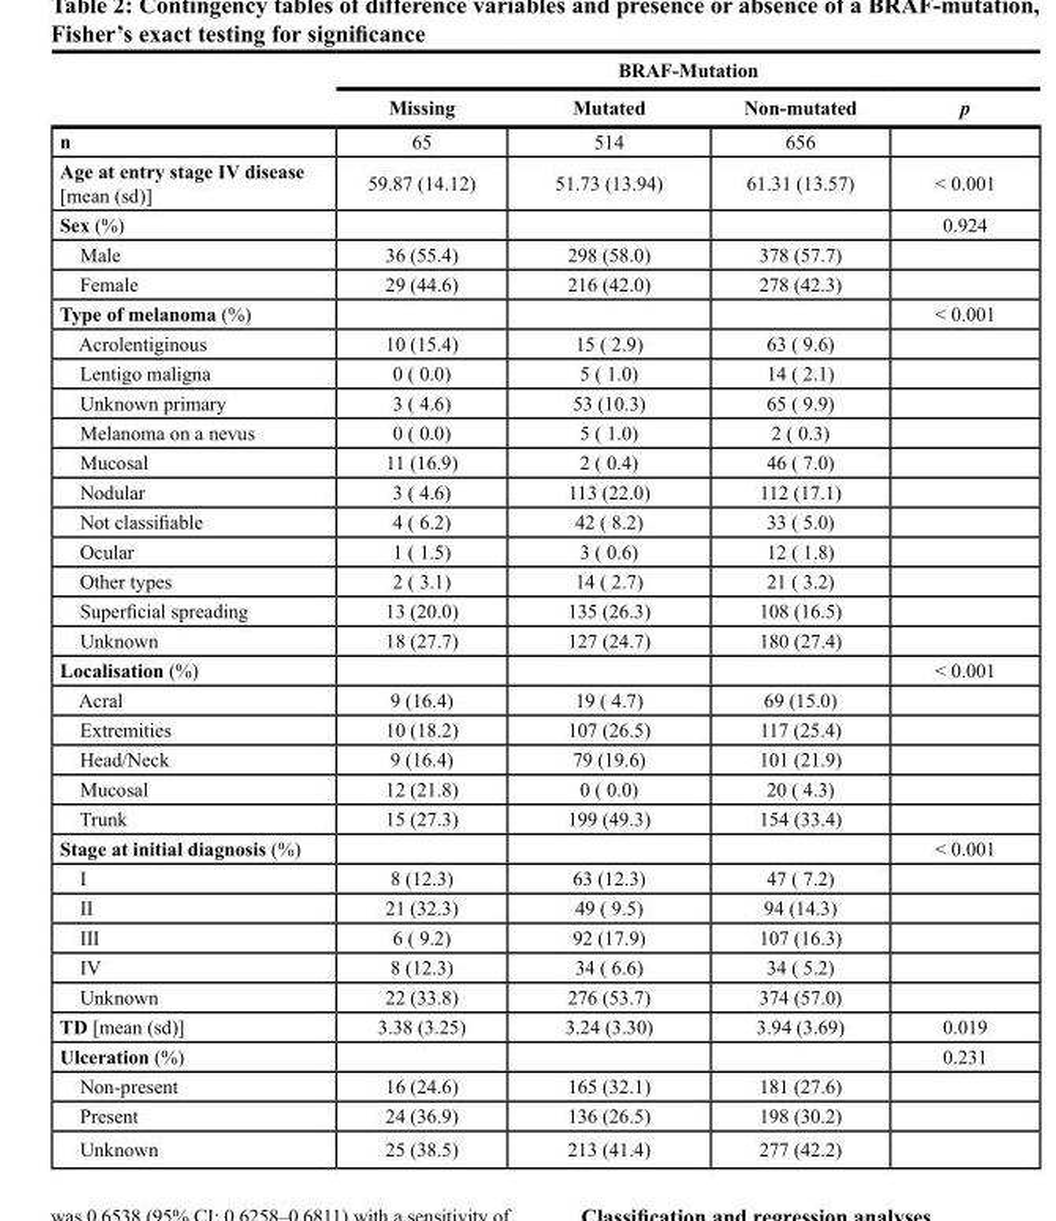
<table><thead><tr><td rowspan="2"></td><td colspan="4">brAF-Mutation</td></tr><tr><td>Missing</td><td>Mutated</td><td>non-mutated</td><td>p</td></tr></thead><tbody><tr><td>n</td><td>65</td><td>514</td><td>656</td><td></td></tr><tr><td>Age at entry stage IV disease [mean (sd)]</td><td>59.87 (14.12)</td><td>51.73 (13.94)</td><td>61.31 (13.57)</td><td>&lt; 0.001</td></tr><tr><td>sex (%)</td><td></td><td></td><td></td><td>0.924</td></tr><tr><td>Male</td><td>36 (55.4)</td><td>298 (58.0)</td><td>378 (57.7)</td><td></td></tr><tr><td>Female</td><td>29 (44.6)</td><td>216 (42.0)</td><td>278 (42.3)</td><td></td></tr><tr><td>type of melanoma (%)</td><td></td><td></td><td></td><td>&lt; 0.001</td></tr><tr><td>Acrolentiginous</td><td>10 (15.4)</td><td>15 ( 2.9)</td><td>63 ( 9.6)</td><td></td></tr><tr><td>Lentigo maligna</td><td>0 ( 0.0)</td><td>5 ( 1.0)</td><td>14 ( 2.1)</td><td></td></tr><tr><td>Unknown primary</td><td>3 ( 4.6)</td><td>53 (10.3)</td><td>65 ( 9.9)</td><td></td></tr><tr><td>Melanoma on a nevus</td><td>0 ( 0.0)</td><td>5 ( 1.0)</td><td>2 ( 0.3)</td><td></td></tr><tr><td>Mucosal</td><td>11 (16.9)</td><td>2 ( 0.4)</td><td>46 ( 7.0)</td><td></td></tr><tr><td>Nodular</td><td>3 ( 4.6)</td><td>113 (22.0)</td><td>112 (17.1)</td><td></td></tr><tr><td>Not classifiable</td><td>4 ( 6.2)</td><td>42 ( 8.2)</td><td>33 ( 5.0)</td><td></td></tr><tr><td>Ocular</td><td>1 ( 1.5)</td><td>3 ( 0.6)</td><td>12 ( 1.8)</td><td></td></tr><tr><td>Other types</td><td>2 ( 3.1)</td><td>14 ( 2.7)</td><td>21 ( 3.2)</td><td></td></tr><tr><td>Superficial spreading</td><td>13 (20.0)</td><td>135 (26.3)</td><td>108 (16.5)</td><td></td></tr><tr><td>Unknown</td><td>18 (27.7)</td><td>127 (24.7)</td><td>180 (27.4)</td><td></td></tr><tr><td>localisation (%)</td><td></td><td></td><td></td><td>&lt; 0.001</td></tr><tr><td>Acral</td><td>9 (16.4)</td><td>19 ( 4.7)</td><td>69 (15.0)</td><td></td></tr><tr><td>Extremities</td><td>10 (18.2)</td><td>107 (26.5)</td><td>117 (25.4)</td><td></td></tr><tr><td>Head/Neck</td><td>9 (16.4)</td><td>79 (19.6)</td><td>101 (21.9)</td><td></td></tr><tr><td>Mucosal</td><td>12 (21.8)</td><td>0 ( 0.0)</td><td>20 ( 4.3)</td><td></td></tr><tr><td>Trunk</td><td>15 (27.3)</td><td>199 (49.3)</td><td>154 (33.4)</td><td></td></tr><tr><td>stage at initial diagnosis (%)</td><td></td><td></td><td></td><td>&lt; 0.001</td></tr><tr><td>I</td><td>8 (12.3)</td><td>63 (12.3)</td><td>47 ( 7.2)</td><td></td></tr><tr><td>II</td><td>21 (32.3)</td><td>49 ( 9.5)</td><td>94 (14.3)</td><td></td></tr><tr><td>III</td><td>6 ( 9.2)</td><td>92 (17.9)</td><td>107 (16.3)</td><td></td></tr><tr><td>IV</td><td>8 (12.3)</td><td>34 ( 6.6)</td><td>34 ( 5.2)</td><td></td></tr><tr><td>Unknown</td><td>22 (33.8)</td><td>276 (53.7)</td><td>374 (57.0)</td><td></td></tr><tr><td>td [mean (sd)]</td><td>3.38 (3.25)</td><td>3.24 (3.30)</td><td>3.94 (3.69)</td><td>0.019</td></tr><tr><td>ulceration (%)</td><td></td><td></td><td></td><td>0.231</td></tr><tr><td>Non-present</td><td>16 (24.6)</td><td>165 (32.1)</td><td>181 (27.6)</td><td></td></tr><tr><td>Present</td><td>24 (36.9)</td><td>136 (26.5)</td><td>198 (30.2)</td><td></td></tr><tr><td>Unknown</td><td>25 (38.5)</td><td>213 (41.4)</td><td>277 (42.2)</td><td></td></tr></tbody></table>